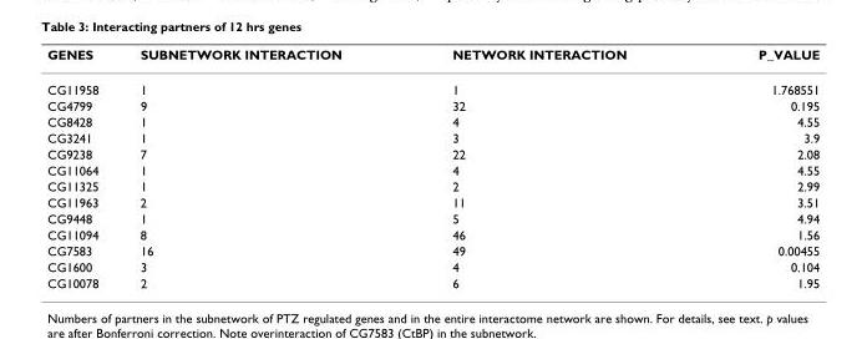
<table><thead><tr><td>GENES</td><td>SUBNETWORK INTERACTION</td><td>NETWORK INTERACTION</td><td>P_VALUE</td></tr></thead><tbody><tr><td>CG11958</td><td>1</td><td>1</td><td>1.768551</td></tr><tr><td>CG4799</td><td>9</td><td>32</td><td>0.195</td></tr><tr><td>CG8428</td><td>1</td><td>4</td><td>4.55</td></tr><tr><td>CG3241</td><td>1</td><td>3</td><td>3.9</td></tr><tr><td>CG9238</td><td>7</td><td>22</td><td>2.08</td></tr><tr><td>CG11064</td><td>1</td><td>4</td><td>4.55</td></tr><tr><td>CG11325</td><td>1</td><td>2</td><td>2.99</td></tr><tr><td>CG11963</td><td>2</td><td>11</td><td>3.51</td></tr><tr><td>CG9448</td><td>1</td><td>5</td><td>4.94</td></tr><tr><td>CG11094</td><td>8</td><td>46</td><td>1.56</td></tr><tr><td>CG7583</td><td>16</td><td>49</td><td>0.00455</td></tr><tr><td>CG1600</td><td>3</td><td>4</td><td>0.104</td></tr><tr><td>CG10078</td><td>2</td><td>6</td><td>1.95</td></tr></tbody></table>